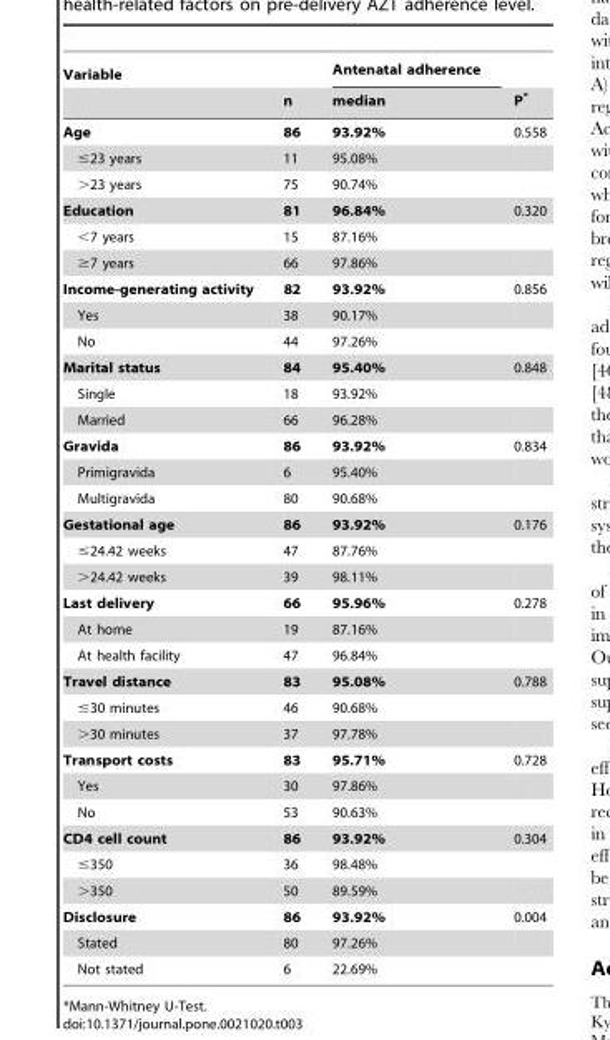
<table><thead><tr><td rowspan="2">Variable</td><td rowspan="2">n</td><td rowspan="2">Antenatal adherence median</td><td rowspan="2">P*</td></tr><tr></tr></thead><tbody><tr><td>Age</td><td>86</td><td>93.92%</td><td>0.558</td></tr><tr><td>≤23 years</td><td>11</td><td>95.08%</td><td></td></tr><tr><td>&gt;23 years</td><td>75</td><td>90.74%</td><td></td></tr><tr><td>Education</td><td>81</td><td>96.84%</td><td>0.320</td></tr><tr><td>&lt;7 years</td><td>15</td><td>87.16%</td><td></td></tr><tr><td>≥7 years</td><td>66</td><td>97.86%</td><td></td></tr><tr><td>Income-generating activity</td><td>82</td><td>93.92%</td><td>0.856</td></tr><tr><td>Yes</td><td>38</td><td>90.17%</td><td></td></tr><tr><td>No</td><td>44</td><td>97.26%</td><td></td></tr><tr><td>Marital status</td><td>84</td><td>95.40%</td><td>0.848</td></tr><tr><td>Single</td><td>18</td><td>93.92%</td><td></td></tr><tr><td>Married</td><td>66</td><td>96.28%</td><td></td></tr><tr><td>Gravida</td><td>86</td><td>93.92%</td><td>0.834</td></tr><tr><td>Primigravida</td><td>6</td><td>95.40%</td><td></td></tr><tr><td>Multigravida</td><td>80</td><td>90.68%</td><td></td></tr><tr><td>Gestational age</td><td>86</td><td>93.92%</td><td>0.176</td></tr><tr><td>≤24.42 weeks</td><td>47</td><td>87.76%</td><td></td></tr><tr><td>&gt;24.42 weeks</td><td>39</td><td>98.11%</td><td></td></tr><tr><td>Last delivery</td><td>66</td><td>95.96%</td><td>0.278</td></tr><tr><td>At home</td><td>19</td><td>87.16%</td><td></td></tr><tr><td>At health facility</td><td>47</td><td>96.84%</td><td></td></tr><tr><td>Travel distance</td><td>83</td><td>95.08%</td><td>0.788</td></tr><tr><td>≤30 minutes</td><td>46</td><td>90.68%</td><td></td></tr><tr><td>&gt;30 minutes</td><td>37</td><td>97.78%</td><td></td></tr><tr><td>Transport costs</td><td>83</td><td>95.71%</td><td>0.728</td></tr><tr><td>Yes</td><td>30</td><td>97.86%</td><td></td></tr><tr><td>No</td><td>53</td><td>90.63%</td><td></td></tr><tr><td>CD4 cell count</td><td>86</td><td>93.92%</td><td>0.304</td></tr><tr><td>≤350</td><td>36</td><td>98.48%</td><td></td></tr><tr><td>&gt;350</td><td>50</td><td>89.59%</td><td></td></tr><tr><td>Disclosure</td><td>86</td><td>93.92%</td><td>0.004</td></tr><tr><td>Stated</td><td>80</td><td>97.26%</td><td></td></tr><tr><td>Not stated</td><td>6</td><td>22.69%</td><td></td></tr></tbody></table>